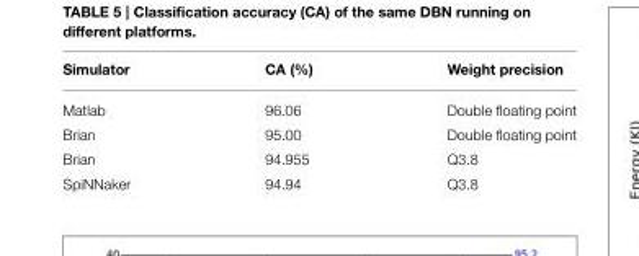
<table><thead><tr><td>Simulator</td><td>CA (%)</td><td>Weight precision</td></tr></thead><tbody><tr><td>Matlab</td><td>96.06</td><td>Double floating point</td></tr><tr><td>Brian</td><td>95.00</td><td>Double floating point</td></tr><tr><td>Brian</td><td>94.955</td><td>Q3.8</td></tr><tr><td>SpiNNaker</td><td>94.94</td><td>Q3.8</td></tr></tbody></table>